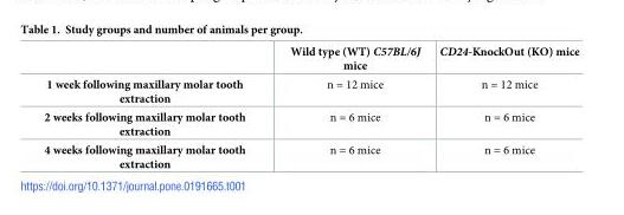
<table><thead><tr><td></td><td>Wild type (WT) C57BL/6J mice</td><td>CD24-KnockOut (KO) mice</td></tr></thead><tbody><tr><td>1 week following maxillary molar tooth extraction</td><td>n = 12 mice</td><td>n = 12 mice</td></tr><tr><td>2 weeks following maxillary molar tooth extraction</td><td>n = 6 mice</td><td>n = 6 mice</td></tr><tr><td>4 weeks following maxillary molar tooth extraction</td><td>n = 6 mice</td><td>n = 6 mice</td></tr></tbody></table>